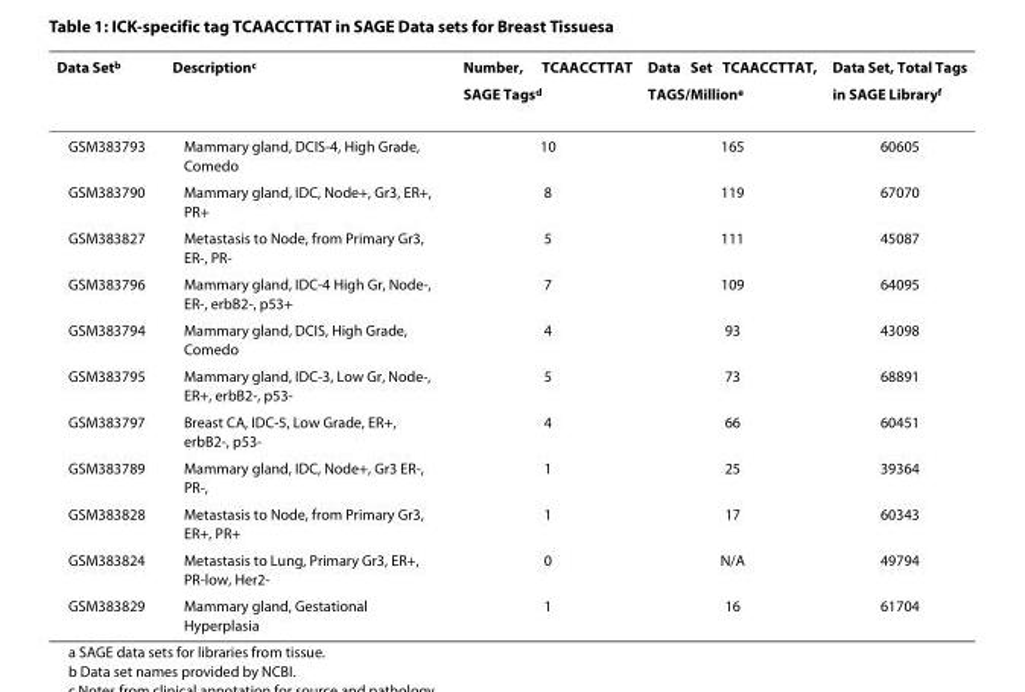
<table><thead><tr><td>Data Set<sup>b</sup></td><td>Description<sup>c</sup></td><td>Number, TCAACCTTAT SAGE Tags<sup>d</sup></td><td>Data Set TCAACCTTAT, TAGS/Million<sup>e</sup></td><td>Data Set, Total Tags in SAGE Library<sup>f</sup></td></tr></thead><tbody><tr><td>GSM383793</td><td>Mammary gland, DCIS-4, High Grade, Comedo</td><td>10</td><td>165</td><td>60605</td></tr><tr><td>GSM383790</td><td>Mammary gland, IDC, Node+, Gr3, ER+, PR+</td><td>8</td><td>119</td><td>67070</td></tr><tr><td>GSM383827</td><td>Metastasis to Node, from Primary Gr3, ER-, PR-</td><td>5</td><td>111</td><td>45087</td></tr><tr><td>GSM383796</td><td>Mammary gland, IDC-4 High Gr, Node-, ER-, erbB2-, p53+</td><td>7</td><td>109</td><td>64095</td></tr><tr><td>GSM383794</td><td>Mammary gland, DCIS, High Grade, Comedo</td><td>4</td><td>93</td><td>43098</td></tr><tr><td>GSM383795</td><td>Mammary gland, IDC-3, Low Gr, Node-, ER+, erbB2-, p53-</td><td>5</td><td>73</td><td>68891</td></tr><tr><td>GSM383797</td><td>Breast CA, IDC-5, Low Grade, ER+, erbB2-, p53-</td><td>4</td><td>66</td><td>60451</td></tr><tr><td>GSM383789</td><td>Mammary gland, IDC, Node+, Gr3 ER-, PR-,</td><td>1</td><td>25</td><td>39364</td></tr><tr><td>GSM383828</td><td>Metastasis to Node, from Primary Gr3, ER+, PR+</td><td>1</td><td>17</td><td>60343</td></tr><tr><td>GSM383824</td><td>Metastasis to Lung, Primary Gr3, ER+, PR-low, Her2-</td><td>0</td><td>N/A</td><td>49794</td></tr><tr><td>GSM383829</td><td>Mammary gland, Gestational Hyperplasia</td><td>1</td><td>16</td><td>61704</td></tr></tbody></table>